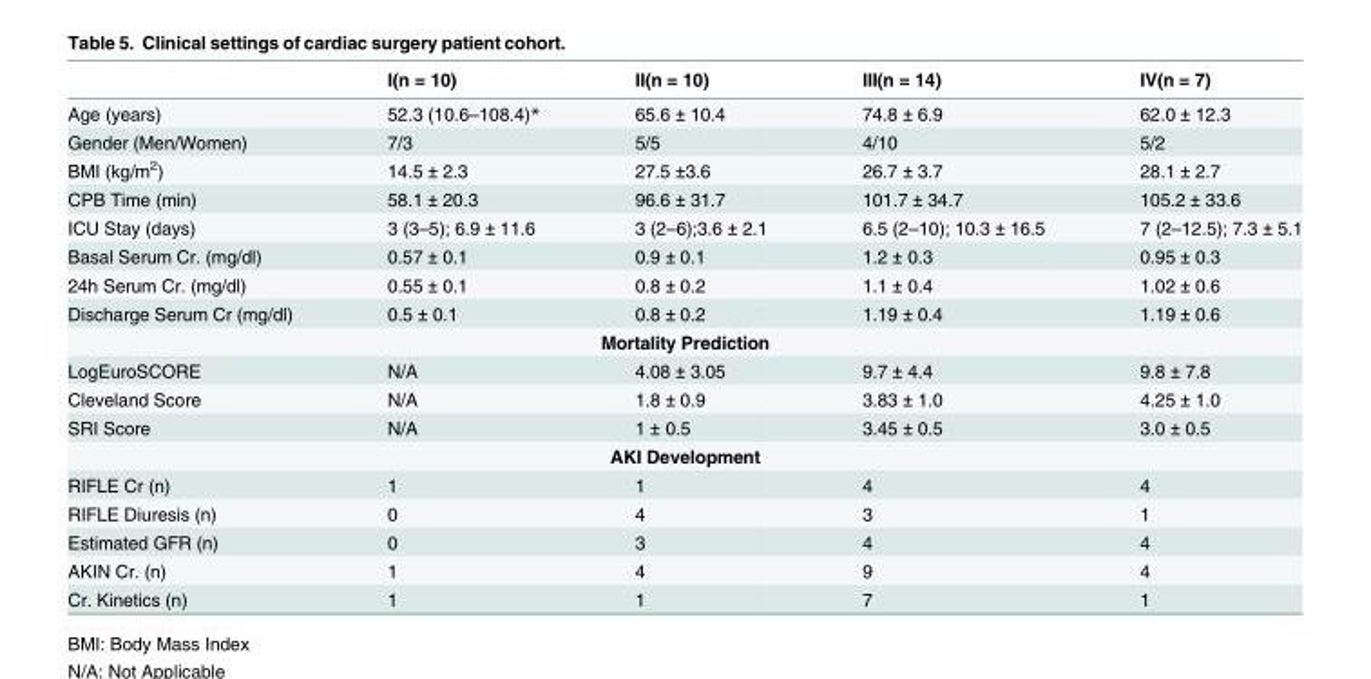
<table><thead><tr><td></td><td>I(n = 10)</td><td>II(n = 10)</td><td>III(n = 14)</td><td>IV(n = 7)</td></tr></thead><tbody><tr><td>Age (years)</td><td>52.3 (10.6–108.4)*</td><td>65.6 ± 10.4</td><td>74.8 ± 6.9</td><td>62.0 ± 12.3</td></tr><tr><td>Gender (Men/Women)</td><td>7/3</td><td>5/5</td><td>4/10</td><td>5/2</td></tr><tr><td>BMI (kg/m<sup>2</sup>)</td><td>14.5 ± 2.3</td><td>27.5 ±3.6</td><td>26.7 ± 3.7</td><td>28.1 ± 2.7</td></tr><tr><td>CPB Time (min)</td><td>58.1 ± 20.3</td><td>96.6 ± 31.7</td><td>101.7 ± 34.7</td><td>105.2 ± 33.6</td></tr><tr><td>ICU Stay (days)</td><td>3 (3–5); 6.9 ± 11.6</td><td>3 (2–6);3.6 ± 2.1</td><td>6.5 (2–10); 10.3 ± 16.5</td><td>7 (2–12.5); 7.3 ± 5.1</td></tr><tr><td>Basal Serum Cr. (mg/dl)</td><td>0.57 ± 0.1</td><td>0.9 ± 0.1</td><td>1.2 ± 0.3</td><td>0.95 ± 0.3</td></tr><tr><td>24h Serum Cr. (mg/dl)</td><td>0.55 ± 0.1</td><td>0.8 ± 0.2</td><td>1.1 ± 0.4</td><td>1.02 ± 0.6</td></tr><tr><td>Discharge Serum Cr (mg/dl)</td><td>0.5 ± 0.1</td><td>0.8 ± 0.2</td><td>1.19 ± 0.4</td><td>1.19 ± 0.6</td></tr><tr><td colspan="5">Mortality Prediction</td></tr><tr><td>LogEuroSCORE</td><td>N/A</td><td>4.08 ± 3.05</td><td>9.7 ± 4.4</td><td>9.8 ± 7.8</td></tr><tr><td>Cleveland Score</td><td>N/A</td><td>1.8 ± 0.9</td><td>3.83 ± 1.0</td><td>4.25 ± 1.0</td></tr><tr><td>SRI Score</td><td>N/A</td><td>1 ± 0.5</td><td>3.45 ± 0.5</td><td>3.0 ± 0.5</td></tr><tr><td colspan="5">AKI Development</td></tr><tr><td>RIFLE Cr (n)</td><td>1</td><td>1</td><td>4</td><td>4</td></tr><tr><td>RIFLE Diuresis (n)</td><td>0</td><td>4</td><td>3</td><td>1</td></tr><tr><td>Estimated GFR (n)</td><td>0</td><td>3</td><td>4</td><td>4</td></tr><tr><td>AKIN Cr. (n)</td><td>1</td><td>4</td><td>9</td><td>4</td></tr><tr><td>Cr. Kinetics (n)</td><td>1</td><td>1</td><td>7</td><td>1</td></tr></tbody></table>